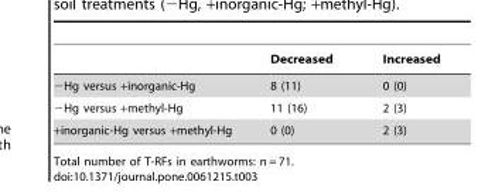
<table><thead><tr><td></td><td>Decreased</td><td>Increased</td></tr></thead><tbody><tr><td>−Hg versus +inorganic-Hg</td><td>8 (11)</td><td>0 (0)</td></tr><tr><td>−Hg versus +methyl-Hg</td><td>11 (16)</td><td>2 (3)</td></tr><tr><td>+inorganic-Hg versus +methyl-Hg</td><td>0 (0)</td><td>2 (3)</td></tr></tbody></table>